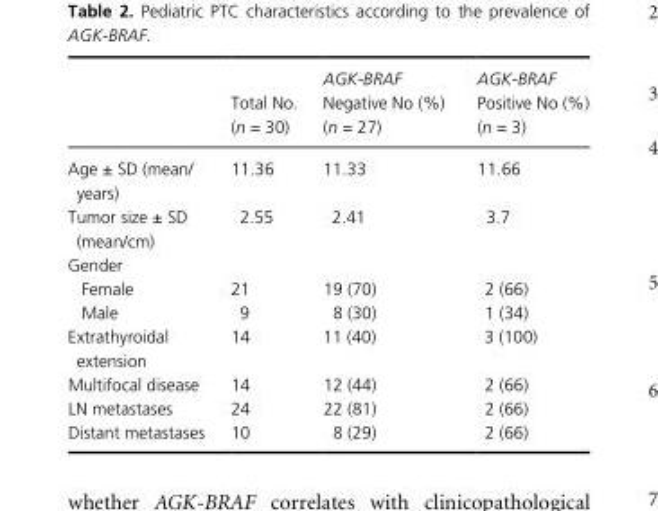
<table><thead><tr><td></td><td>Total No. (n = 30)</td><td>AGK-BRAF Negative No (%) (n = 27)</td><td>AGK-BRAF Positive No (%) (n = 3)</td></tr></thead><tbody><tr><td>Age ± SD (mean/ years)</td><td>11.36</td><td>11.33</td><td>11.66</td></tr><tr><td>Tumor size ± SD (mean/cm)</td><td>2.55</td><td>2.41</td><td>3.7</td></tr><tr><td colspan="4">Gender</td></tr><tr><td>Female</td><td>21</td><td>19 (70)</td><td>2 (66)</td></tr><tr><td>Male</td><td>9</td><td>8 (30)</td><td>1 (34)</td></tr><tr><td>Extrathyroidal extension</td><td>14</td><td>11 (40)</td><td>3 (100)</td></tr><tr><td>Multifocal disease</td><td>14</td><td>12 (44)</td><td>2 (66)</td></tr><tr><td>LN metastases</td><td>24</td><td>22 (81)</td><td>2 (66)</td></tr><tr><td>Distant metastases</td><td>10</td><td>8 (29)</td><td>2 (66)</td></tr></tbody></table>